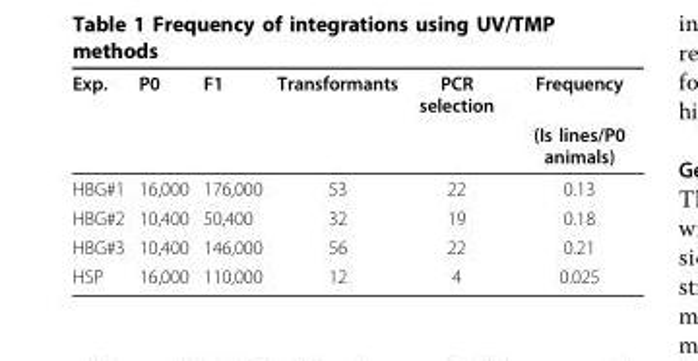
<table><thead><tr><td rowspan="2">Exp.</td><td rowspan="2">P0</td><td rowspan="2">F1</td><td rowspan="2">Transformants</td><td rowspan="2">PCR selection</td><td rowspan="2">Frequency (Is lines/P0 animals)</td></tr><tr></tr></thead><tbody><tr><td>HBG#1</td><td>16,000</td><td>176,000</td><td>53</td><td>22</td><td>0.13</td></tr><tr><td>HBG#2</td><td>10,400</td><td>50,400</td><td>32</td><td>19</td><td>0.18</td></tr><tr><td>HBG#3</td><td>10,400</td><td>146,000</td><td>56</td><td>22</td><td>0.21</td></tr><tr><td>HSP</td><td>16,000</td><td>110,000</td><td>12</td><td>4</td><td>0.025</td></tr></tbody></table>